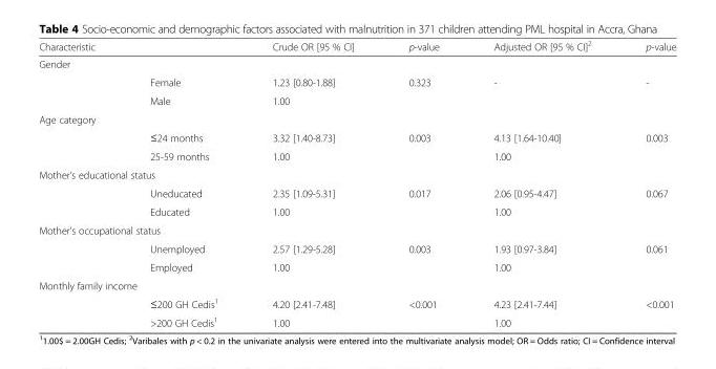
<table><thead><tr><td>Characteristic</td><td></td><td>Crude OR [95 % CI]</td><td>p-value</td><td>Adjusted OR [95 % CI]<sup>2</sup></td><td>p-value</td></tr></thead><tbody><tr><td colspan="6">Gender</td></tr><tr><td></td><td>Female</td><td>1.23 [0.80-1.88]</td><td>0.323</td><td>-</td><td>-</td></tr><tr><td></td><td>Male</td><td>1.00</td><td></td><td></td><td></td></tr><tr><td colspan="6">Age category</td></tr><tr><td></td><td>≤24 months</td><td>3.32 [1.40-8.73]</td><td>0.003</td><td>4.13 [1.64-10.40]</td><td>0.003</td></tr><tr><td></td><td>25-59 months</td><td>1.00</td><td></td><td>1.00</td><td></td></tr><tr><td colspan="6">Mother’s educational status</td></tr><tr><td></td><td>Uneducated</td><td>2.35 [1.09-5.31]</td><td>0.017</td><td>2.06 [0.95-4.47]</td><td>0.067</td></tr><tr><td></td><td>Educated</td><td>1.00</td><td></td><td>1.00</td><td></td></tr><tr><td colspan="6">Mother&#x27;s occupational status</td></tr><tr><td></td><td>Unemployed</td><td>2.57 [1.29-5.28]</td><td>0.003</td><td>1.93 [0.97-3.84]</td><td>0.061</td></tr><tr><td></td><td>Employed</td><td>1.00</td><td></td><td>1.00</td><td></td></tr><tr><td colspan="6">Monthly family income</td></tr><tr><td></td><td>≤200 GH Cedis<sup>1</sup></td><td>4.20 [2.41-7.48]</td><td>&lt;0.001</td><td>4.23 [2.41-7.44]</td><td>&lt;0.001</td></tr><tr><td></td><td>&gt;200 GH Cedis<sup>1</sup></td><td>1.00</td><td></td><td>1.00</td><td></td></tr></tbody></table>